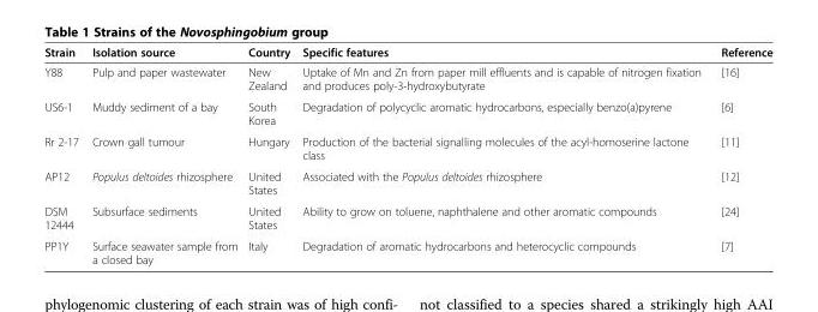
<table><thead><tr><td>Strain</td><td>Isolation source</td><td>Country</td><td>Specific features</td><td>Reference</td></tr></thead><tbody><tr><td>Y88</td><td>Pulp and paper wastewater</td><td>New Zealand</td><td>Uptake of Mn and Zn from paper mill effluents and is capable of nitrogen fixation and produces poly-3-hydroxybutyrate</td><td>[16]</td></tr><tr><td>US6-1</td><td>Muddy sediment of a bay</td><td>South Korea</td><td>Degradation of polycyclic aromatic hydrocarbons, especially benzo(a)pyrene</td><td>[6]</td></tr><tr><td>Rr 2-17</td><td>Crown gall tumour</td><td>Hungary</td><td>Production of the bacterial signalling molecules of the acyl-homoserine lactone class</td><td>[11]</td></tr><tr><td>AP12</td><td>Populus deltoides rhizosphere</td><td>United States</td><td>Associated with the Populus deltoides rhizosphere</td><td>[12]</td></tr><tr><td>DSM 12444</td><td>Subsurface sediments</td><td>United States</td><td>Ability to grow on toluene, naphthalene and other aromatic compounds</td><td>[24]</td></tr><tr><td>PP1Y</td><td>Surface seawater sample from a closed bay</td><td>Italy</td><td>Degradation of aromatic hydrocarbons and heterocyclic compounds</td><td>[7]</td></tr></tbody></table>